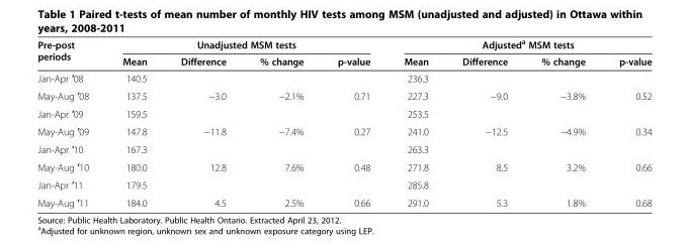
<table><thead><tr><td rowspan="2">Pre-post periods</td><td colspan="4">Unadjusted MSM tests</td><td colspan="4">Adjusted<sup>a</sup> MSM tests</td></tr><tr><td>Mean</td><td>Difference</td><td>% change</td><td>p-value</td><td>Mean</td><td>Difference</td><td>% change</td><td>p-value</td></tr></thead><tbody><tr><td>Jan-Apr ′08</td><td>140.5</td><td></td><td></td><td></td><td>236.3</td><td></td><td></td><td></td></tr><tr><td>May-Aug ′08</td><td>137.5</td><td>−3.0</td><td>−2.1%</td><td>0.71</td><td>227.3</td><td>−9.0</td><td>−3.8%</td><td>0.52</td></tr><tr><td>Jan-Apr ′09</td><td>159.5</td><td></td><td></td><td></td><td>253.5</td><td></td><td></td><td></td></tr><tr><td>May-Aug ′09</td><td>147.8</td><td>−11.8</td><td>−7.4%</td><td>0.27</td><td>241.0</td><td>−12.5</td><td>−4.9%</td><td>0.34</td></tr><tr><td>Jan-Apr ′10</td><td>167.3</td><td></td><td></td><td></td><td>263.3</td><td></td><td></td><td></td></tr><tr><td>May-Aug ′10</td><td>180.0</td><td>12.8</td><td>7.6%</td><td>0.48</td><td>271.8</td><td>8.5</td><td>3.2%</td><td>0.66</td></tr><tr><td>Jan-Apr ′11</td><td>179.5</td><td></td><td></td><td></td><td>285.8</td><td></td><td></td><td></td></tr><tr><td>May-Aug ′11</td><td>184.0</td><td>4.5</td><td>2.5%</td><td>0.66</td><td>291.0</td><td>5.3</td><td>1.8%</td><td>0.68</td></tr></tbody></table>